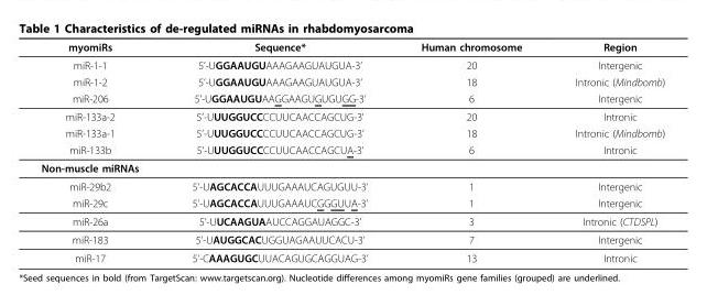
<table><tbody><tr><td>myomiRs</td><td>Sequence*</td><td>Human chromosome</td><td>Region</td></tr><tr><td>miR-1-1</td><td>5’-UGGAAUGUAAAGAAGUAUGUA-3’</td><td>20</td><td>Intergenic</td></tr><tr><td>miR-1-2</td><td>5’-UGGAAUGUAAAGAAGUAUGUA-3’</td><td>18</td><td>Intronic (Mindbomb)</td></tr><tr><td>miR-206</td><td>5’-UGGAAUGUAAGGAAGUGUGUGG-3’</td><td>6</td><td>Intergenic</td></tr><tr><td>miR-133a-2</td><td>5’-UUUGGUCCCCUUCAACCAGCUG-3’</td><td>20</td><td>Intronic</td></tr><tr><td>miR-133a-1</td><td>5’-UUUGGUCCCCUUCAACCAGCUG-3’</td><td>18</td><td>Intronic (Mindbomb)</td></tr><tr><td>miR-133b</td><td>5’-UUUGGUCCCCUUCAACCAGCUA-3’</td><td>6</td><td>Intronic</td></tr><tr><td colspan="4">Non-muscle miRNAs</td></tr><tr><td>miR-29b2</td><td>5’-UAGCACCAUUUGAAAUCAGUGUU-3’</td><td>1</td><td>Intergenic</td></tr><tr><td>miR-29c</td><td>5’-UAGCACCAUUUGAAAUCGGGUUA-3’</td><td>1</td><td>Intergenic</td></tr><tr><td>miR-26a</td><td>5’-UUCAAGUAAUCCAGGAUAGGC-3’</td><td>3</td><td>Intronic (CTDSPL)</td></tr><tr><td>miR-183</td><td>5’-UAUGGCACUGGUAGAAUUCACU-3’</td><td>7</td><td>Intergenic</td></tr><tr><td>miR-17</td><td>5’-CAAAGUGCUUACAGUGCAGGUAG-3’</td><td>13</td><td>Intronic</td></tr></tbody></table>